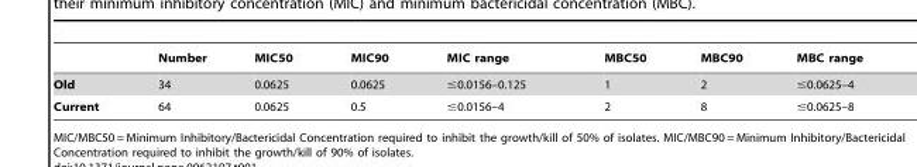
<table><thead><tr><td></td><td>Number</td><td>MIC50</td><td>MIC90</td><td>MIC range</td><td>MBC50</td><td>MBC90</td><td>MBC range</td></tr></thead><tbody><tr><td>Old</td><td>34</td><td>0.0625</td><td>0.0625</td><td>≤0.0156–0.125</td><td>1</td><td>2</td><td>≤0.0625–4</td></tr><tr><td>Current</td><td>64</td><td>0.0625</td><td>0.5</td><td>≤0.0156–4</td><td>2</td><td>8</td><td>≤0.0625–8</td></tr></tbody></table>